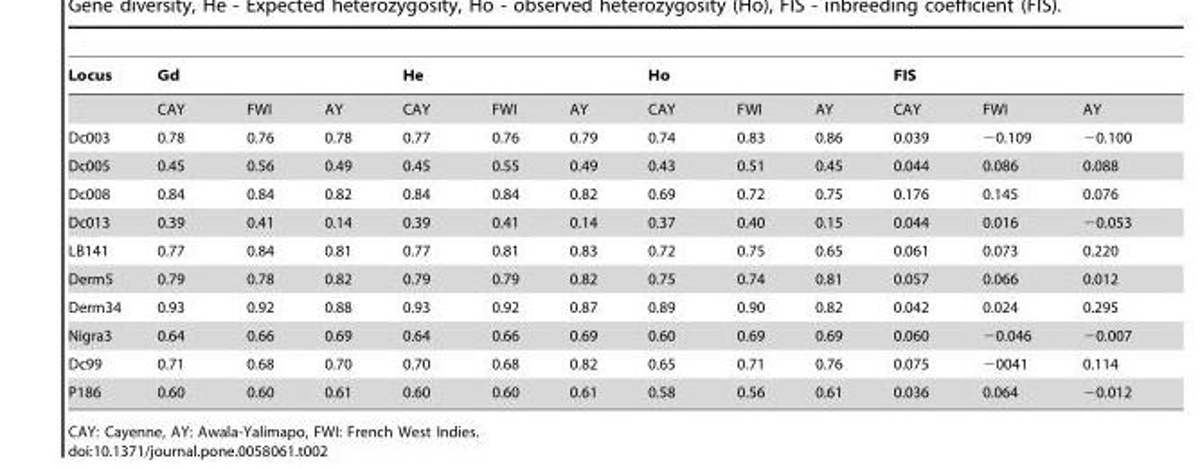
<table><thead><tr><td rowspan="2">Locus</td><td colspan="3">Gd</td><td colspan="3">He</td><td colspan="3">Ho</td><td colspan="3">FIS</td></tr><tr><td>CAY</td><td>FWI</td><td>AY</td><td>CAY</td><td>FWI</td><td>AY</td><td>CAY</td><td>FWI</td><td>AY</td><td>CAY</td><td>FWI</td><td>AY</td></tr></thead><tbody><tr><td>Dc003</td><td>0.78</td><td>0.76</td><td>0.78</td><td>0.77</td><td>0.76</td><td>0.79</td><td>0.74</td><td>0.83</td><td>0.86</td><td>0.039</td><td>−0.109</td><td>−0.100</td></tr><tr><td>Dc005</td><td>0.45</td><td>0.56</td><td>0.49</td><td>0.45</td><td>0.55</td><td>0.49</td><td>0.43</td><td>0.51</td><td>0.45</td><td>0.044</td><td>0.086</td><td>0.088</td></tr><tr><td>Dc008</td><td>0.84</td><td>0.84</td><td>0.82</td><td>0.84</td><td>0.84</td><td>0.82</td><td>0.69</td><td>0.72</td><td>0.75</td><td>0.176</td><td>0.145</td><td>0.076</td></tr><tr><td>Dc013</td><td>0.39</td><td>0.41</td><td>0.14</td><td>0.39</td><td>0.41</td><td>0.14</td><td>0.37</td><td>0.40</td><td>0.15</td><td>0.044</td><td>0.016</td><td>−0.053</td></tr><tr><td>LB141</td><td>0.77</td><td>0.84</td><td>0.81</td><td>0.77</td><td>0.81</td><td>0.83</td><td>0.72</td><td>0.75</td><td>0.65</td><td>0.061</td><td>0.073</td><td>0.220</td></tr><tr><td>Derm5</td><td>0.79</td><td>0.78</td><td>0.82</td><td>0.79</td><td>0.79</td><td>0.82</td><td>0.75</td><td>0.74</td><td>0.81</td><td>0.057</td><td>0.066</td><td>0.012</td></tr><tr><td>Derm34</td><td>0.93</td><td>0.92</td><td>0.88</td><td>0.93</td><td>0.92</td><td>0.87</td><td>0.89</td><td>0.90</td><td>0.82</td><td>0.042</td><td>0.024</td><td>0.295</td></tr><tr><td>Nigra3</td><td>0.64</td><td>0.66</td><td>0.69</td><td>0.64</td><td>0.66</td><td>0.69</td><td>0.60</td><td>0.69</td><td>0.69</td><td>0.060</td><td>−0.046</td><td>−0.007</td></tr><tr><td>Dc99</td><td>0.71</td><td>0.68</td><td>0.70</td><td>0.70</td><td>0.68</td><td>0.82</td><td>0.65</td><td>0.71</td><td>0.76</td><td>0.075</td><td>−0041</td><td>0.114</td></tr><tr><td>P186</td><td>0.60</td><td>0.60</td><td>0.61</td><td>0.60</td><td>0.60</td><td>0.61</td><td>0.58</td><td>0.56</td><td>0.61</td><td>0.036</td><td>0.064</td><td>−0.012</td></tr></tbody></table>